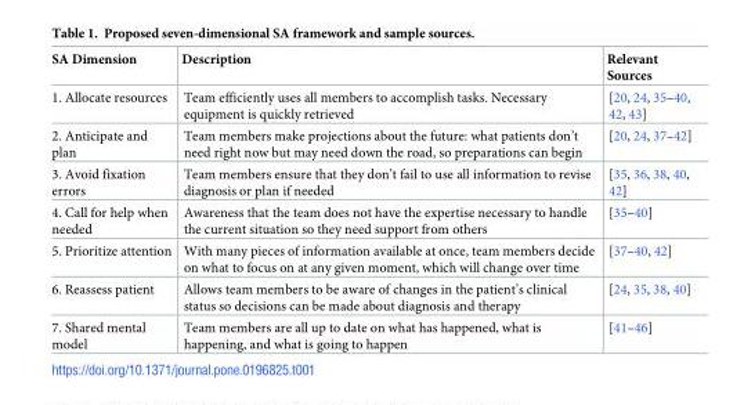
<table><thead><tr><td>SA Dimension</td><td>Description</td><td>Relevant Sources</td></tr></thead><tbody><tr><td>1. Allocate resources</td><td>Team efficiently uses all members to accomplish tasks. Necessary equipment is quickly retrieved</td><td>[20, 24, 35–40, 42, 43]</td></tr><tr><td>2. Anticipate and plan</td><td>Team members make projections about the future: what patients don’t need right now but may need down the road, so preparations can begin</td><td>[20, 24, 37–42]</td></tr><tr><td>3. Avoid fixation errors</td><td>Team members ensure that they don’t fail to use all information to revise diagnosis or plan if needed</td><td>[35, 36, 38, 40, 42]</td></tr><tr><td>4. Call for help when needed</td><td>Awareness that the team does not have the expertise necessary to handle the current situation so they need support from others</td><td>[35–40]</td></tr><tr><td>5. Prioritize attention</td><td>With many pieces of information available at once, team members decide on what to focus on at any given moment, which will change over time</td><td>[37–40, 42]</td></tr><tr><td>6. Reassess patient</td><td>Allows team members to be aware of changes in the patient’s clinical status so decisions can be made about diagnosis and therapy</td><td>[24, 35, 38, 40]</td></tr><tr><td>7. Shared mental model</td><td>Team members are all up to date on what has happened, what is happening, and what is going to happen</td><td>[41–46]</td></tr></tbody></table>